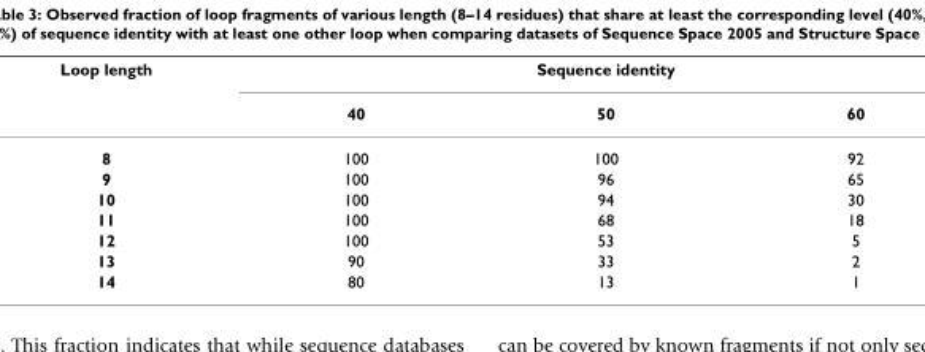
<table><thead><tr><td rowspan="2">Loop length</td><td colspan="3">Sequence identity</td></tr><tr><td>40</td><td>50</td><td>60</td></tr></thead><tbody><tr><td>8</td><td>100</td><td>100</td><td>92</td></tr><tr><td>9</td><td>100</td><td>96</td><td>65</td></tr><tr><td>10</td><td>100</td><td>94</td><td>30</td></tr><tr><td>11</td><td>100</td><td>68</td><td>18</td></tr><tr><td>12</td><td>100</td><td>53</td><td>5</td></tr><tr><td>13</td><td>90</td><td>33</td><td>2</td></tr><tr><td>14</td><td>80</td><td>13</td><td>1</td></tr></tbody></table>